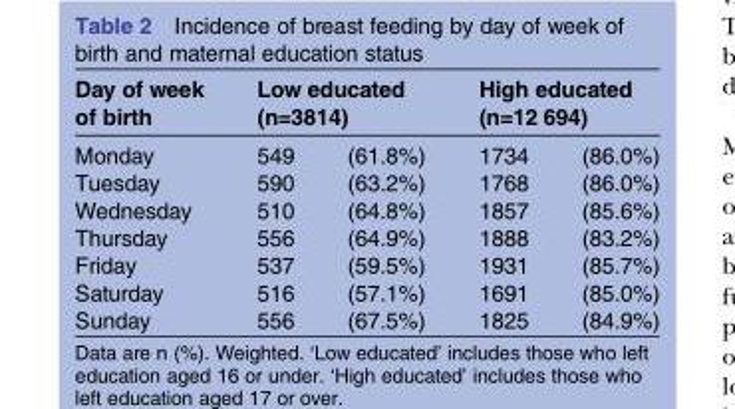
<table><thead><tr><td rowspan="2">Day of week of birth Monday</td><td colspan="2">Low educated (n=3814)</td><td colspan="2">High educated (n=12 694)</td></tr><tr><td>549</td><td>(61.8%)</td><td>1734</td><td>(86.0%)</td></tr></thead><tbody><tr><td>Tuesday</td><td>590</td><td>(63.2%)</td><td>1768</td><td>(86.0%)</td></tr><tr><td>Wednesday</td><td>510</td><td>(64.8%)</td><td>1857</td><td>(85.6%)</td></tr><tr><td>Thursday</td><td>556</td><td>(64.9%)</td><td>1888</td><td>(83.2%)</td></tr><tr><td>Friday</td><td>537</td><td>(59.5%)</td><td>1931</td><td>(85.7%)</td></tr><tr><td>Saturday</td><td>516</td><td>(57.1%)</td><td>1691</td><td>(85.0%)</td></tr><tr><td>Sunday</td><td>556</td><td>(67.5%)</td><td>1825</td><td>(84.9%)</td></tr></tbody></table>